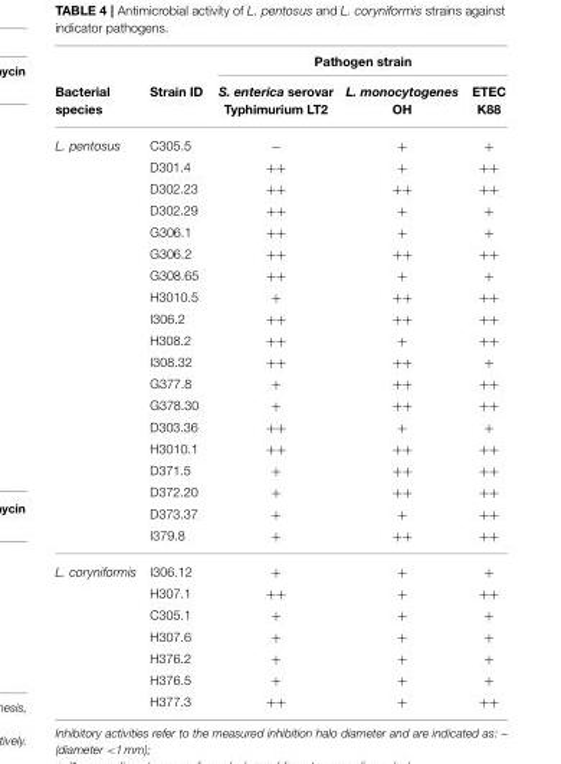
<table><thead><tr><td rowspan="2">Bacterial species</td><td rowspan="2">Strain ID</td><td colspan="3">Pathogen strain</td></tr><tr><td>S. enterica serovar Typhimurium LT2</td><td>L. monocytogenes OH</td><td>ETEC K88</td></tr></thead><tbody><tr><td rowspan="19">L. pentosus</td><td>C305.5</td><td>−</td><td>+</td><td>+</td></tr><tr><td>D301.4</td><td>++</td><td>+</td><td>++</td></tr><tr><td>D302.23</td><td>++</td><td>++</td><td>++</td></tr><tr><td>D302.29</td><td>++</td><td>+</td><td>+</td></tr><tr><td>G306.1</td><td>++</td><td>+</td><td>+</td></tr><tr><td>G306.2</td><td>++</td><td>++</td><td>++</td></tr><tr><td>G308.65</td><td>++</td><td>+</td><td>+</td></tr><tr><td>H3010.5</td><td>+</td><td>++</td><td>++</td></tr><tr><td>I306.2</td><td>++</td><td>++</td><td>++</td></tr><tr><td>H308.2</td><td>++</td><td>+</td><td>++</td></tr><tr><td>I308.32</td><td>++</td><td>++</td><td>+</td></tr><tr><td>G377.8</td><td>+</td><td>++</td><td>++</td></tr><tr><td>G378.30</td><td>+</td><td>++</td><td>++</td></tr><tr><td>D303.36</td><td>++</td><td>+</td><td>+</td></tr><tr><td>H3010.1</td><td>++</td><td>++</td><td>++</td></tr><tr><td>D371.5</td><td>+</td><td>++</td><td>++</td></tr><tr><td>D372.20</td><td>+</td><td>++</td><td>++</td></tr><tr><td>D373.37</td><td>+</td><td>+</td><td>++</td></tr><tr><td>I379.8</td><td>+</td><td>++</td><td>++</td></tr><tr><td rowspan="7">L. coryniformis</td><td>I306.12</td><td>+</td><td>+</td><td>+</td></tr><tr><td>H307.1</td><td>++</td><td>+</td><td>++</td></tr><tr><td>C305.1</td><td>+</td><td>+</td><td>+</td></tr><tr><td>H307.6</td><td>+</td><td>+</td><td>+</td></tr><tr><td>H376.2</td><td>+</td><td>+</td><td>+</td></tr><tr><td>H376.5</td><td>+</td><td>+</td><td>+</td></tr><tr><td>H377.3</td><td>++</td><td>+</td><td>++</td></tr></tbody></table>